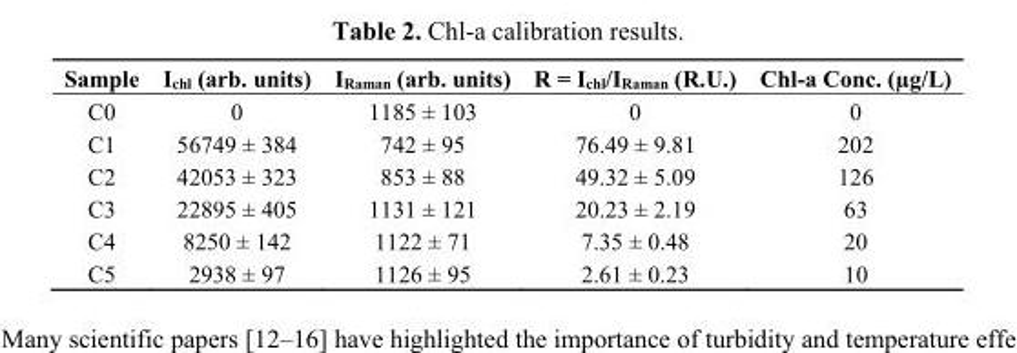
<table><thead><tr><td>Sample</td><td>I<sub>chl</sub> (arb. units)</td><td>I<sub>Raman</sub> (arb. units)</td><td>R = I<sub>chl</sub>/I<sub>Raman</sub> (R.U.)</td><td>Chl-a Conc. (µg/L)</td></tr></thead><tbody><tr><td>C0</td><td>0</td><td>1185 ± 103</td><td>0</td><td>0</td></tr><tr><td>C1</td><td>56749 ± 384</td><td>742 ± 95</td><td>76.49 ± 9.81</td><td>202</td></tr><tr><td>C2</td><td>42053 ± 323</td><td>853 ± 88</td><td>49.32 ± 5.09</td><td>126</td></tr><tr><td>C3</td><td>22895 ± 405</td><td>1131 ± 121</td><td>20.23 ± 2.19</td><td>63</td></tr><tr><td>C4</td><td>8250 ± 142</td><td>1122 ± 71</td><td>7.35 ± 0.48</td><td>20</td></tr><tr><td>C5</td><td>2938 ± 97</td><td>1126 ± 95</td><td>2.61 ± 0.23</td><td>10</td></tr></tbody></table>